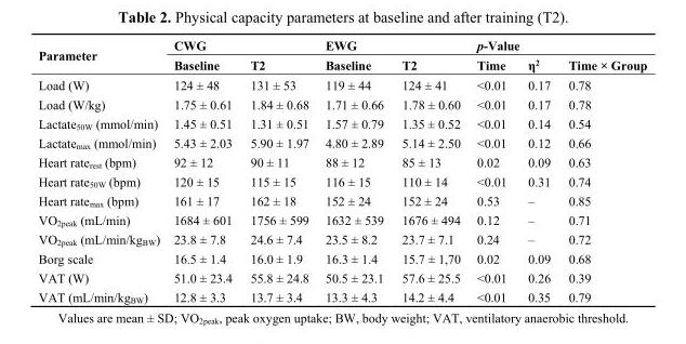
<table><thead><tr><td rowspan="2">Parameter</td><td colspan="2">CWG</td><td colspan="2">EWG</td><td colspan="3">p-Value</td></tr><tr><td>Baseline</td><td>T2</td><td>Baseline</td><td>T2</td><td>Time</td><td>η<sup>2</sup></td><td>Time × Group</td></tr></thead><tbody><tr><td>Load (W)</td><td>124 ± 48</td><td>131 ± 53</td><td>119 ± 44</td><td>124 ± 41</td><td>&lt;0.01</td><td>0.17</td><td>0.78</td></tr><tr><td>Load (W/kg)</td><td>1.75 ± 0.61</td><td>1.84 ± 0.68</td><td>1.71 ± 0.66</td><td>1.78 ± 0.60</td><td>&lt;0.01</td><td>0.17</td><td>0.78</td></tr><tr><td>Lactate<sub>50W</sub> (mmol/min)</td><td>1.45 ± 0.51</td><td>1.31 ± 0.51</td><td>1.57 ± 0.79</td><td>1.35 ± 0.52</td><td>&lt;0.01</td><td>0.14</td><td>0.54</td></tr><tr><td>Lactate<sub>max</sub> (mmol/min)</td><td>5.43 ± 2.03</td><td>5.90 ± 1.97</td><td>4.80 ± 2.89</td><td>5.14 ± 2.50</td><td>&lt;0.01</td><td>0.12</td><td>0.66</td></tr><tr><td>Heart rate<sub>rest</sub> (bpm)</td><td>92 ± 12</td><td>90 ± 11</td><td>88 ± 12</td><td>85 ± 13</td><td>0.02</td><td>0.09</td><td>0.63</td></tr><tr><td>Heart rate<sub>50W</sub> (bpm)</td><td>120 ± 15</td><td>115 ± 15</td><td>116 ± 15</td><td>110 ± 14</td><td>&lt;0.01</td><td>0.31</td><td>0.74</td></tr><tr><td>Heart rate<sub>max</sub> (bpm)</td><td>161 ± 17</td><td>162 ± 18</td><td>152 ± 24</td><td>152 ± 24</td><td>0.53</td><td>–</td><td>0.85</td></tr><tr><td>VO<sub>2peak</sub> (mL/min)</td><td>1684 ± 601</td><td>1756 ± 599</td><td>1632 ± 539</td><td>1676 ± 494</td><td>0.12</td><td>–</td><td>0.71</td></tr><tr><td>VO<sub>2peak</sub> (mL/min/kg<sub>BW</sub>)</td><td>23.8 ± 7.8</td><td>24.6 ± 7.4</td><td>23.5 ± 8.2</td><td>23.7 ± 7.1</td><td>0.24</td><td>–</td><td>0.72</td></tr><tr><td>Borg scale</td><td>16.5 ± 1.4</td><td>16.0 ± 1.9</td><td>16.3 ± 1.4</td><td>15.7 ± 1,70</td><td>0.02</td><td>0.09</td><td>0.68</td></tr><tr><td>VAT (W)</td><td>51.0 ± 23.4</td><td>55.8 ± 24.8</td><td>50.5 ± 23.1</td><td>57.6 ± 25.5</td><td>&lt;0.01</td><td>0.26</td><td>0.39</td></tr><tr><td>VAT (mL/min/kg<sub>BW</sub>)</td><td>12.8 ± 3.3</td><td>13.7 ± 3.4</td><td>13.3 ± 4.3</td><td>14.2 ± 4.4</td><td>&lt;0.01</td><td>0.35</td><td>0.79</td></tr></tbody></table>